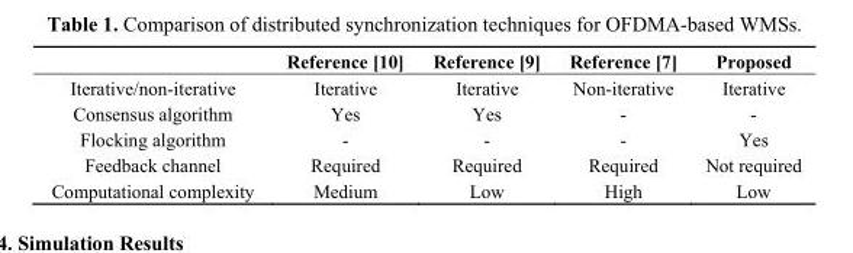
<table><thead><tr><td></td><td>Reference [10]</td><td>Reference [9]</td><td>Reference [7]</td><td>Proposed</td></tr></thead><tbody><tr><td>Iterative/non-iterative</td><td>Iterative</td><td>Iterative</td><td>Non-iterative</td><td>Iterative</td></tr><tr><td>Consensus algorithm</td><td>Yes</td><td>Yes</td><td>-</td><td>-</td></tr><tr><td>Flocking algorithm</td><td>-</td><td>-</td><td>-</td><td>Yes</td></tr><tr><td>Feedback channel</td><td>Required</td><td>Required</td><td>Required</td><td>Not required</td></tr><tr><td>Computational complexity</td><td>Medium</td><td>Low</td><td>High</td><td>Low</td></tr></tbody></table>